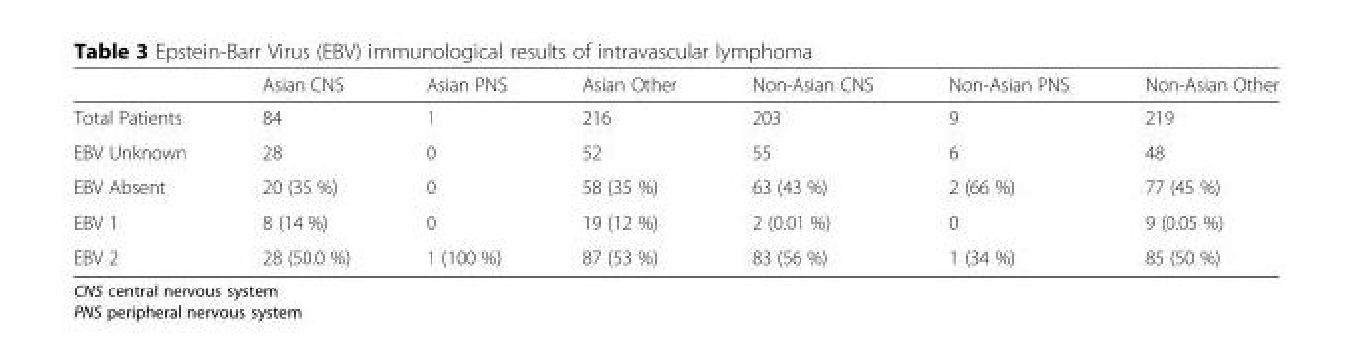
<table><thead><tr><td></td><td>Asian CNS</td><td>Asian PNS</td><td>Asian Other</td><td>Non-Asian CNS</td><td>Non-Asian PNS</td><td>Non-Asian Other</td></tr></thead><tbody><tr><td>Total Patients</td><td>84</td><td>1</td><td>216</td><td>203</td><td>9</td><td>219</td></tr><tr><td>EBV Unknown</td><td>28</td><td>0</td><td>52</td><td>55</td><td>6</td><td>48</td></tr><tr><td>EBV Absent</td><td>20 (35 %)</td><td>0</td><td>58 (35 %)</td><td>63 (43 %)</td><td>2 (66 %)</td><td>77 (45 %)</td></tr><tr><td>EBV 1</td><td>8 (14 %)</td><td>0</td><td>19 (12 %)</td><td>2 (0.01 %)</td><td>0</td><td>9 (0.05 %)</td></tr><tr><td>EBV 2</td><td>28 (50.0 %)</td><td>1 (100 %)</td><td>87 (53 %)</td><td>83 (56 %)</td><td>1 (34 %)</td><td>85 (50 %)</td></tr></tbody></table>